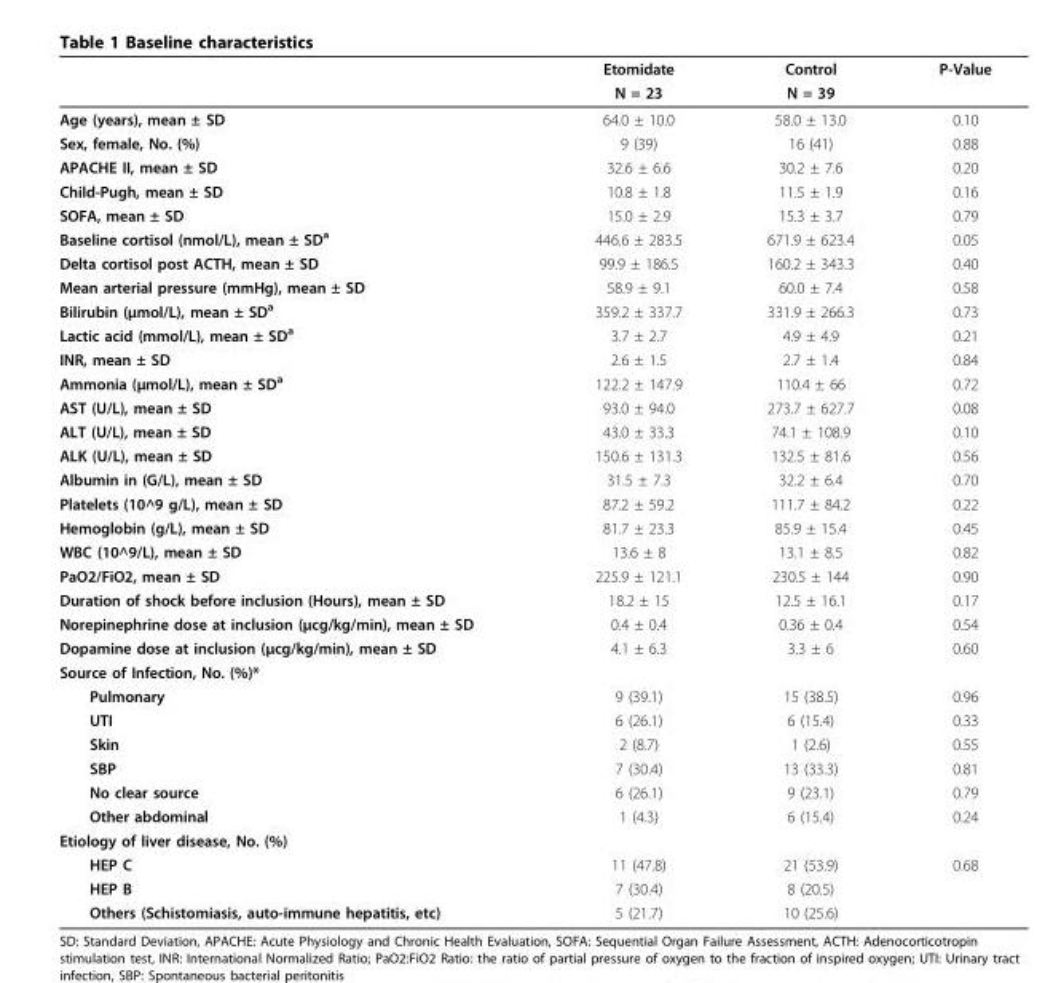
<table><thead><tr><td rowspan="2"></td><td rowspan="2">Etomidate N = 23</td><td rowspan="2">Control N = 39</td><td rowspan="2">P-Value</td></tr><tr></tr></thead><tbody><tr><td>Age (years), mean ± SD</td><td>64.0 ± 10.0</td><td>58.0 ± 13.0</td><td>0.10</td></tr><tr><td>Sex, female, No. (%)</td><td>9 (39)</td><td>16 (41)</td><td>0.88</td></tr><tr><td>APACHE II, mean ± SD</td><td>32.6 ± 6.6</td><td>30.2 ± 7.6</td><td>0.20</td></tr><tr><td>Child-Pugh, mean ± SD</td><td>10.8 ± 1.8</td><td>11.5 ± 1.9</td><td>0.16</td></tr><tr><td>SOFA, mean ± SD</td><td>15.0 ± 2.9</td><td>15.3 ± 3.7</td><td>0.79</td></tr><tr><td>Baseline cortisol (nmol/L), mean ± SD<sup>a</sup></td><td>446.6 ± 283.5</td><td>671.9 ± 623.4</td><td>0.05</td></tr><tr><td>Delta cortisol post ACTH, mean ± SD</td><td>99.9 ± 186.5</td><td>160.2 ± 343.3</td><td>0.40</td></tr><tr><td>Mean arterial pressure (mmHg), mean ± SD</td><td>58.9 ± 9.1</td><td>60.0 ± 7.4</td><td>0.58</td></tr><tr><td>Bilirubin (μmol/L), mean ± SD<sup>a</sup></td><td>359.2 ± 337.7</td><td>331.9 ± 266.3</td><td>0.73</td></tr><tr><td>Lactic acid (mmol/L), mean ± SD<sup>a</sup></td><td>3.7 ± 2.7</td><td>4.9 ± 4.9</td><td>0.21</td></tr><tr><td>INR, mean ± SD</td><td>2.6 ± 1.5</td><td>2.7 ± 1.4</td><td>0.84</td></tr><tr><td>Ammonia (μmol/L), mean ± SD<sup>a</sup></td><td>122.2 ± 147.9</td><td>110.4 ± 66</td><td>0.72</td></tr><tr><td>AST (U/L), mean ± SD</td><td>93.0 ± 94.0</td><td>273.7 ± 627.7</td><td>0.08</td></tr><tr><td>ALT (U/L), mean ± SD</td><td>43.0 ± 33.3</td><td>74.1 ± 108.9</td><td>0.10</td></tr><tr><td>ALK (U/L), mean ± SD</td><td>150.6 ± 131.3</td><td>132.5 ± 81.6</td><td>0.56</td></tr><tr><td>Albumin in (G/L), mean ± SD</td><td>31.5 ± 7.3</td><td>32.2 ± 6.4</td><td>0.70</td></tr><tr><td>Platelets (10^9 g/L), mean ± SD</td><td>87.2 ± 59.2</td><td>111.7 ± 84.2</td><td>0.22</td></tr><tr><td>Hemoglobin (g/L), mean ± SD</td><td>81.7 ± 23.3</td><td>85.9 ± 15.4</td><td>0.45</td></tr><tr><td>WBC (10^9/L), mean ± SD</td><td>13.6 ± 8</td><td>13.1 ± 8.5</td><td>0.82</td></tr><tr><td>PaO2/FiO2, mean ± SD</td><td>225.9 ± 121.1</td><td>230.5 ± 144</td><td>0.90</td></tr><tr><td>Duration of shock before inclusion (Hours), mean ± SD</td><td>18.2 ± 15</td><td>12.5 ± 16.1</td><td>0.17</td></tr><tr><td>Norepinephrine dose at inclusion (μcg/kg/min), mean ± SD</td><td>0.4 ± 0.4</td><td>0.36 ± 0.4</td><td>0.54</td></tr><tr><td>Dopamine dose at inclusion (μcg/kg/min), mean ± SD</td><td>4.1 ± 6.3</td><td>3.3 ± 6</td><td>0.60</td></tr><tr><td colspan="4">Source of Infection, No. (%)*</td></tr><tr><td>Pulmonary</td><td>9 (39.1)</td><td>15 (38.5)</td><td>0.96</td></tr><tr><td>UTI</td><td>6 (26.1)</td><td>6 (15.4)</td><td>0.33</td></tr><tr><td>Skin</td><td>2 (8.7)</td><td>1 (2.6)</td><td>0.55</td></tr><tr><td>SBP</td><td>7 (30.4)</td><td>13 (33.3)</td><td>0.81</td></tr><tr><td>No clear source</td><td>6 (26.1)</td><td>9 (23.1)</td><td>0.79</td></tr><tr><td>Other abdominal</td><td>1 (4.3)</td><td>6 (15.4)</td><td>0.24</td></tr><tr><td colspan="4">Etiology of liver disease, No. (%)</td></tr><tr><td>HEP C</td><td>11 (47.8)</td><td>21 (53.9)</td><td>0.68</td></tr><tr><td>HEP B</td><td>7 (30.4)</td><td>8 (20.5)</td><td></td></tr><tr><td>Others (Schistomiasis, auto-immune hepatitis, etc)</td><td>5 (21.7)</td><td>10 (25.6)</td><td></td></tr></tbody></table>